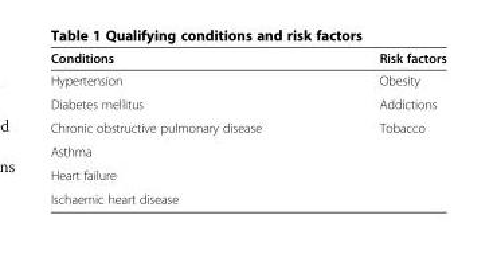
<table><thead><tr><td>Conditions</td><td>Risk factors</td></tr></thead><tbody><tr><td>Hypertension</td><td>Obesity</td></tr><tr><td>Diabetes mellitus</td><td>Addictions</td></tr><tr><td>Chronic obstructive pulmonary disease</td><td>Tobacco</td></tr><tr><td colspan="2">Asthma</td></tr><tr><td colspan="2">Heart failure</td></tr><tr><td>Ischaemic heart disease</td><td></td></tr></tbody></table>